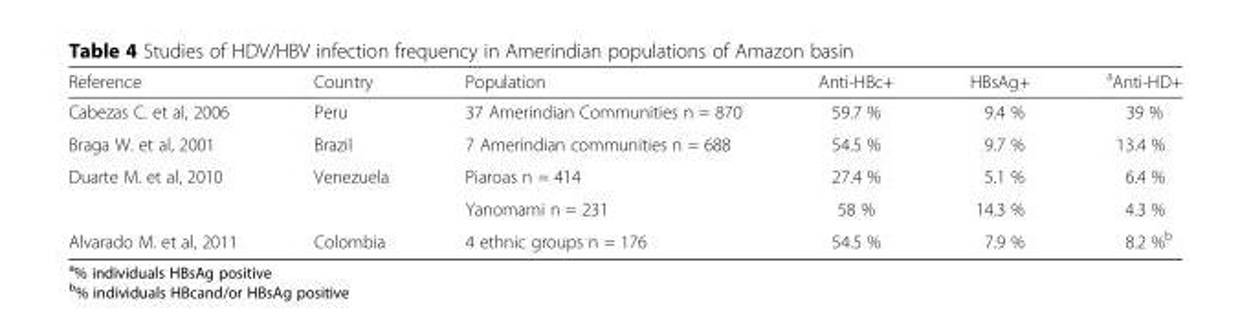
<table><thead><tr><td>Reference</td><td>Country</td><td>Population</td><td>Anti-HBc+</td><td>HBsAg+</td><td><sup>a</sup>Anti-HD+</td></tr></thead><tbody><tr><td>Cabezas C. et al, 2006</td><td>Peru</td><td>37 Amerindian Communities n = 870</td><td>59.7 %</td><td>9.4 %</td><td>39 %</td></tr><tr><td>Braga W. et al, 2001</td><td>Brazil</td><td>7 Amerindian communities n = 688</td><td>54.5 %</td><td>9.7 %</td><td>13.4 %</td></tr><tr><td rowspan="2">Duarte M. et al, 2010</td><td>Venezuela</td><td>Piaroas n = 414</td><td>27.4 %</td><td>5.1 %</td><td>6.4 %</td></tr><tr><td></td><td>Yanomami n = 231</td><td>58 %</td><td>14.3 %</td><td>4.3 %</td></tr><tr><td>Alvarado M. et al, 2011</td><td>Colombia</td><td>4 ethnic groups n = 176</td><td>54.5 %</td><td>7.9 %</td><td>8.2 %<sup>b</sup></td></tr></tbody></table>